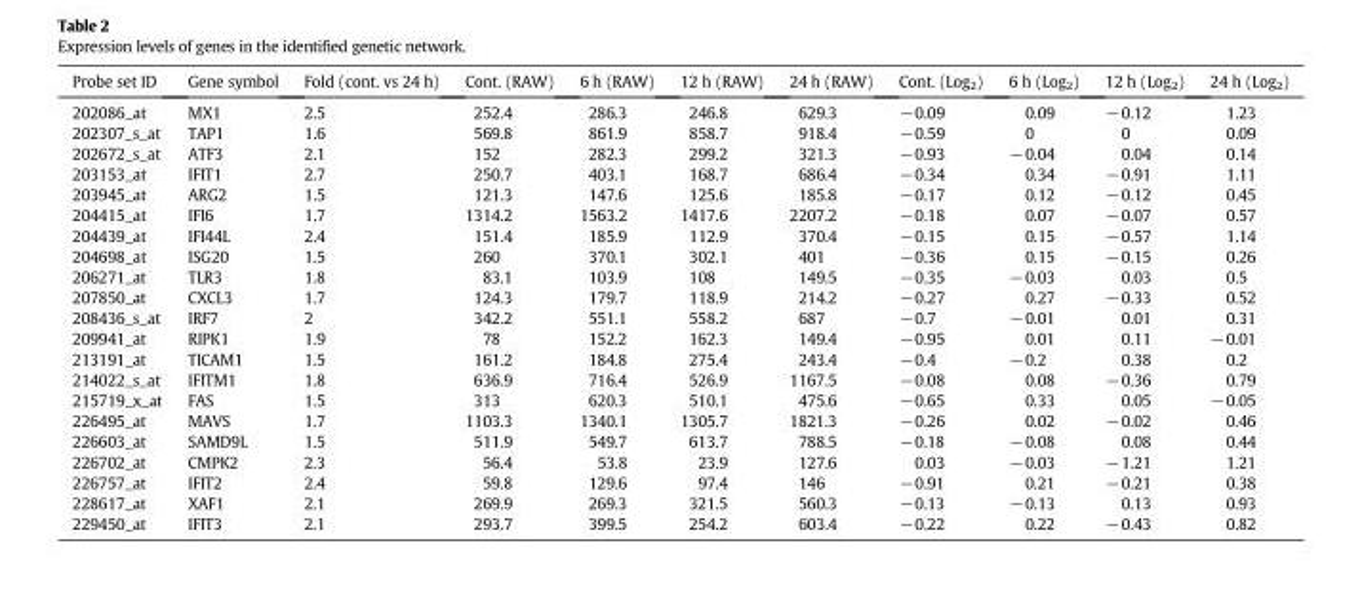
<table><thead><tr><td>Probe set ID</td><td>Gene symbol</td><td>Fold (cont. vs 24 h)</td><td>Cont. (RAW)</td><td>6 h (RAW)</td><td>12 h (RAW)</td><td>24 h (RAW)</td><td>Cont. (Log<sub>2</sub>)</td><td>6 h (Log<sub>2</sub>)</td><td>12 h (Log<sub>2</sub>)</td><td>24 h (Log<sub>2</sub>)</td></tr></thead><tbody><tr><td>202086_at</td><td>MX1</td><td>2.5</td><td>252.4</td><td>286.3</td><td>246.8</td><td>629.3</td><td>−0.09</td><td>0.09</td><td>−0.12</td><td>1.23</td></tr><tr><td>202307_s_at</td><td>TAP1</td><td>1.6</td><td>569.8</td><td>861.9</td><td>858.7</td><td>918.4</td><td>−0.59</td><td>0</td><td>0</td><td>0.09</td></tr><tr><td>202672_s_at</td><td>ATF3</td><td>2.1</td><td>152</td><td>282.3</td><td>299.2</td><td>321.3</td><td>−0.93</td><td>−0.04</td><td>0.04</td><td>0.14</td></tr><tr><td>203153_at</td><td>IFIT1</td><td>2.7</td><td>250.7</td><td>403.1</td><td>168.7</td><td>686.4</td><td>−0.34</td><td>0.34</td><td>−0.91</td><td>1.11</td></tr><tr><td>203945_at</td><td>ARG2</td><td>1.5</td><td>121.3</td><td>147.6</td><td>125.6</td><td>185.8</td><td>−0.17</td><td>0.12</td><td>−0.12</td><td>0.45</td></tr><tr><td>204415_at</td><td>IFI6</td><td>1.7</td><td>1314.2</td><td>1563.2</td><td>1417.6</td><td>2207.2</td><td>−0.18</td><td>0.07</td><td>−0.07</td><td>0.57</td></tr><tr><td>204439_at</td><td>IFI44L</td><td>2.4</td><td>151.4</td><td>185.9</td><td>112.9</td><td>370.4</td><td>−0.15</td><td>0.15</td><td>−0.57</td><td>1.14</td></tr><tr><td>204698_at</td><td>ISG20</td><td>1.5</td><td>260</td><td>370.1</td><td>302.1</td><td>401</td><td>−0.36</td><td>0.15</td><td>−0.15</td><td>0.26</td></tr><tr><td>206271_at</td><td>TLR3</td><td>1.8</td><td>83.1</td><td>103.9</td><td>108</td><td>149.5</td><td>−0.35</td><td>−0.03</td><td>0.03</td><td>0.5</td></tr><tr><td>207850_at</td><td>CXCL3</td><td>1.7</td><td>124.3</td><td>179.7</td><td>118.9</td><td>214.2</td><td>−0.27</td><td>0.27</td><td>−0.33</td><td>0.52</td></tr><tr><td>208436_s_at</td><td>IRF7</td><td>2</td><td>342.2</td><td>551.1</td><td>558.2</td><td>687</td><td>−0.7</td><td>−0.01</td><td>0.01</td><td>0.31</td></tr><tr><td>209941_at</td><td>RIPK1</td><td>1.9</td><td>78</td><td>152.2</td><td>162.3</td><td>149.4</td><td>−0.95</td><td>0.01</td><td>0.11</td><td>−0.01</td></tr><tr><td>213191_at</td><td>TICAM1</td><td>1.5</td><td>161.2</td><td>184.8</td><td>275.4</td><td>243.4</td><td>−0.4</td><td>−0.2</td><td>0.38</td><td>0.2</td></tr><tr><td>214022_s_at</td><td>IFITM1</td><td>1.8</td><td>636.9</td><td>716.4</td><td>526.9</td><td>1167.5</td><td>−0.08</td><td>0.08</td><td>−0.36</td><td>0.79</td></tr><tr><td>215719_x_at</td><td>FAS</td><td>1.5</td><td>313</td><td>620.3</td><td>510.1</td><td>475.6</td><td>−0.65</td><td>0.33</td><td>0.05</td><td>−0.05</td></tr><tr><td>226495_at</td><td>MAVS</td><td>1.7</td><td>1103.3</td><td>1340.1</td><td>1305.7</td><td>1821.3</td><td>−0.26</td><td>0.02</td><td>−0.02</td><td>0.46</td></tr><tr><td>226603_at</td><td>SAMD9L</td><td>1.5</td><td>511.9</td><td>549.7</td><td>613.7</td><td>788.5</td><td>−0.18</td><td>−0.08</td><td>0.08</td><td>0.44</td></tr><tr><td>226702_at</td><td>CMPK2</td><td>2.3</td><td>56.4</td><td>53.8</td><td>23.9</td><td>127.6</td><td>0.03</td><td>−0.03</td><td>−1.21</td><td>1.21</td></tr><tr><td>226757_at</td><td>IFIT2</td><td>2.4</td><td>59.8</td><td>129.6</td><td>97.4</td><td>146</td><td>−0.91</td><td>0.21</td><td>−0.21</td><td>0.38</td></tr><tr><td>228617_at</td><td>XAF1</td><td>2.1</td><td>269.9</td><td>269.3</td><td>321.5</td><td>560.3</td><td>−0.13</td><td>−0.13</td><td>0.13</td><td>0.93</td></tr><tr><td>229450_at</td><td>IFIT3</td><td>2.1</td><td>293.7</td><td>399.5</td><td>254.2</td><td>603.4</td><td>−0.22</td><td>0.22</td><td>−0.43</td><td>0.82</td></tr></tbody></table>